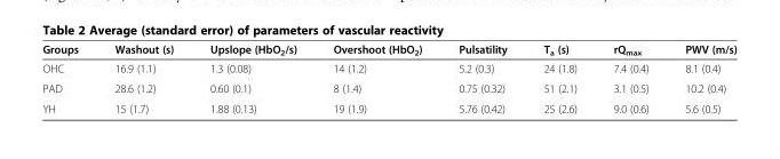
<table><thead><tr><td>Groups</td><td>Washout (s)</td><td>Upslope (HbO<sub>2</sub>/s)</td><td>Overshoot (HbO<sub>2</sub>)</td><td>Pulsatility</td><td>T<sub>a</sub> (s)</td><td>rQ<sub>max</sub></td><td>PWV (m/s)</td></tr></thead><tbody><tr><td>OHC</td><td>16.9 (1.1)</td><td>1.3 (0.08)</td><td>14 (1.2)</td><td>5.2 (0.3)</td><td>24 (1.8)</td><td>7.4 (0.4)</td><td>8.1 (0.4)</td></tr><tr><td>PAD</td><td>28.6 (1.2)</td><td>0.60 (0.1)</td><td>8 (1.4)</td><td>0.75 (0.32)</td><td>51 (2.1)</td><td>3.1 (0.5)</td><td>10.2 (0.4)</td></tr><tr><td>YH</td><td>15 (1.7)</td><td>1.88 (0.13)</td><td>19 (1.9)</td><td>5.76 (0.42)</td><td>25 (2.6)</td><td>9.0 (0.6)</td><td>5.6 (0.5)</td></tr></tbody></table>